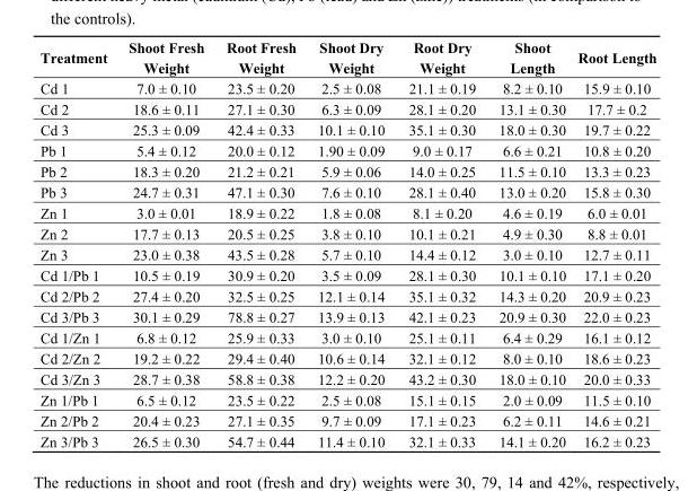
<table><thead><tr><td>Treatment</td><td>Shoot Fresh Weight</td><td>Root Fresh Weight</td><td>Shoot Dry Weight</td><td>Root Dry Weight</td><td>Shoot Length</td><td>Root Length</td></tr></thead><tbody><tr><td>Cd 1</td><td>7.0 ± 0.10</td><td>23.5 ± 0.20</td><td>2.5 ± 0.08</td><td>21.1 ± 0.19</td><td>8.2 ± 0.10</td><td>15.9 ± 0.10</td></tr><tr><td>Cd 2</td><td>18.6 ± 0.11</td><td>27.1 ± 0.30</td><td>6.3 ± 0.09</td><td>28.1 ± 0.20</td><td>13.1 ± 0.30</td><td>17.7 ± 0.2</td></tr><tr><td>Cd 3</td><td>25.3 ± 0.09</td><td>42.4 ± 0.33</td><td>10.1 ± 0.10</td><td>35.1 ± 0.30</td><td>18.0 ± 0.30</td><td>19.7 ± 0.22</td></tr><tr><td>Pb 1</td><td>5.4 ± 0.12</td><td>20.0 ± 0.12</td><td>1.90 ± 0.09</td><td>9.0 ± 0.17</td><td>6.6 ± 0.21</td><td>10.8 ± 0.20</td></tr><tr><td>Pb 2</td><td>18.3 ± 0.20</td><td>21.2 ± 0.21</td><td>5.9 ± 0.06</td><td>14.0 ± 0.25</td><td>11.5 ± 0.10</td><td>13.3 ± 0.23</td></tr><tr><td>Pb 3</td><td>24.7 ± 0.31</td><td>47.1 ± 0.30</td><td>7.6 ± 0.10</td><td>28.1 ± 0.40</td><td>13.0 ± 0.20</td><td>15.8 ± 0.30</td></tr><tr><td>Zn 1</td><td>3.0 ± 0.01</td><td>18.9 ± 0.22</td><td>1.8 ± 0.08</td><td>8.1 ± 0.20</td><td>4.6 ± 0.19</td><td>6.0 ± 0.01</td></tr><tr><td>Zn 2</td><td>17.7 ± 0.13</td><td>20.5 ± 0.25</td><td>3.8 ± 0.10</td><td>10.1 ± 0.21</td><td>4.9 ± 0.30</td><td>8.8 ± 0.01</td></tr><tr><td>Zn 3</td><td>23.0 ± 0.38</td><td>43.5 ± 0.28</td><td>5.7 ± 0.10</td><td>14.4 ± 0.12</td><td>3.0 ± 0.10</td><td>12.7 ± 0.11</td></tr><tr><td>Cd 1/Pb 1</td><td>10.5 ± 0.19</td><td>30.9 ± 0.20</td><td>3.5 ± 0.09</td><td>28.1 ± 0.30</td><td>10.1 ± 0.10</td><td>17.1 ± 0.20</td></tr><tr><td>Cd 2/Pb 2</td><td>27.4 ± 0.20</td><td>32.5 ± 0.25</td><td>12.1 ± 0.14</td><td>35.1 ± 0.32</td><td>14.3 ± 0.20</td><td>20.9 ± 0.23</td></tr><tr><td>Cd 3/Pb 3</td><td>30.1 ± 0.29</td><td>78.8 ± 0.27</td><td>13.9 ± 0.13</td><td>42.1 ± 0.23</td><td>20.9 ± 0.30</td><td>22.0 ± 0.23</td></tr><tr><td>Cd 1/Zn 1</td><td>6.8 ± 0.12</td><td>25.9 ± 0.33</td><td>3.0 ± 0.10</td><td>25.1 ± 0.11</td><td>6.4 ± 0.29</td><td>16.1 ± 0.12</td></tr><tr><td>Cd 2/Zn 2</td><td>19.2 ± 0.22</td><td>29.4 ± 0.40</td><td>10.6 ± 0.14</td><td>32.1 ± 0.12</td><td>8.0 ± 0.10</td><td>18.6 ± 0.23</td></tr><tr><td>Cd 3/Zn 3</td><td>28.7 ± 0.38</td><td>58.8 ± 0.38</td><td>12.2 ± 0.20</td><td>43.2 ± 0.30</td><td>18.0 ± 0.10</td><td>20.0 ± 0.33</td></tr><tr><td>Zn 1/Pb 1</td><td>6.5 ± 0.12</td><td>23.5 ± 0.22</td><td>2.5 ± 0.08</td><td>15.1 ± 0.15</td><td>2.0 ± 0.09</td><td>11.5 ± 0.10</td></tr><tr><td>Zn 2/Pb 2</td><td>20.4 ± 0.23</td><td>27.1 ± 0.35</td><td>9.7 ± 0.09</td><td>17.1 ± 0.23</td><td>6.2 ± 0.11</td><td>14.6 ± 0.21</td></tr><tr><td>Zn 3/Pb 3</td><td>26.5 ± 0.30</td><td>54.7 ± 0.44</td><td>11.4 ± 0.10</td><td>32.1 ± 0.33</td><td>14.1 ± 0.20</td><td>16.2 ± 0.23</td></tr></tbody></table>